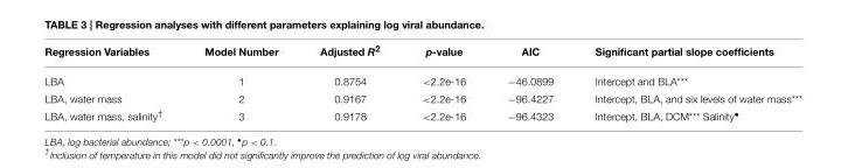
<table><thead><tr><td>Regression Variables</td><td>Model Number</td><td>Adjusted R<sup>2</sup></td><td>p-value</td><td>AIC</td><td>Significant partial slope coefficients</td></tr></thead><tbody><tr><td>LBA</td><td>1</td><td>0.8754</td><td>&lt;2.2e-16</td><td>−46.0899</td><td>Intercept and BLA***</td></tr><tr><td>LBA, water mass</td><td>2</td><td>0.9167</td><td>&lt;2.2e-16</td><td>−96.4227</td><td>Intercept, BLA, and six levels of water mass***</td></tr><tr><td>LBA, water mass, salinity<sup>†</sup></td><td>3</td><td>0.9178</td><td>&lt;2.2e-16</td><td>−96.4323</td><td>Intercept, BLA, DCM*** Salinity<sup>•</sup></td></tr></tbody></table>